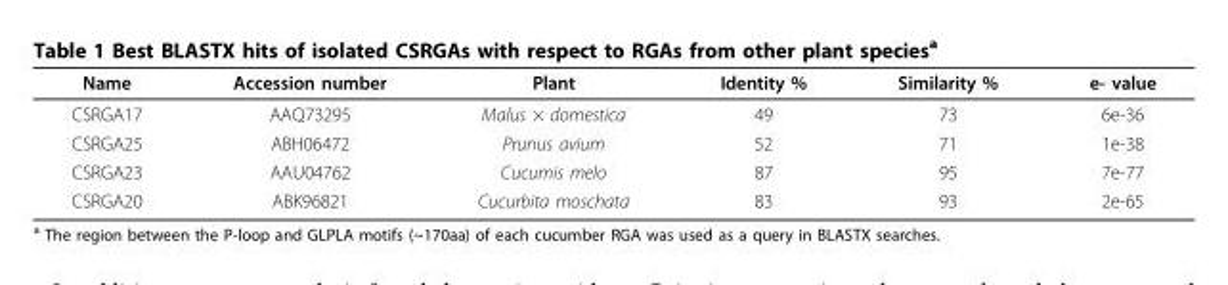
<table><thead><tr><td>Name</td><td>Accession number</td><td>Plant</td><td>Identity %</td><td>Similarity %</td><td>e- value</td></tr></thead><tbody><tr><td>CSRGA17</td><td>AAQ73295</td><td>Malus × domestica</td><td>49</td><td>73</td><td>6e-36</td></tr><tr><td>CSRGA25</td><td>ABH06472</td><td>Prunus avium</td><td>52</td><td>71</td><td>1e-38</td></tr><tr><td>CSRGA23</td><td>AAU04762</td><td>Cucumis melo</td><td>87</td><td>95</td><td>7e-77</td></tr><tr><td>CSRGA20</td><td>ABK96821</td><td>Cucurbita moschata</td><td>83</td><td>93</td><td>2e-65</td></tr></tbody></table>